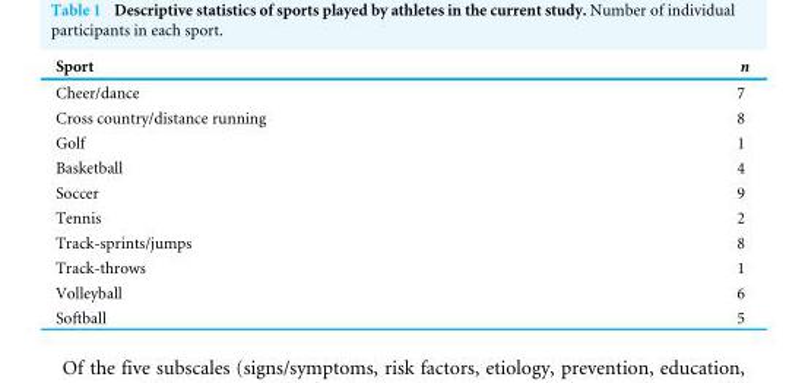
<table><thead><tr><td>Sport</td><td>n</td></tr></thead><tbody><tr><td>Cheer/dance</td><td>7</td></tr><tr><td>Cross country/distance running</td><td>8</td></tr><tr><td>Golf</td><td>1</td></tr><tr><td>Basketball</td><td>4</td></tr><tr><td>Soccer</td><td>9</td></tr><tr><td>Tennis</td><td>2</td></tr><tr><td>Track-sprints/jumps</td><td>8</td></tr><tr><td>Track-throws</td><td>1</td></tr><tr><td>Volleyball</td><td>6</td></tr><tr><td>Softball</td><td>5</td></tr></tbody></table>